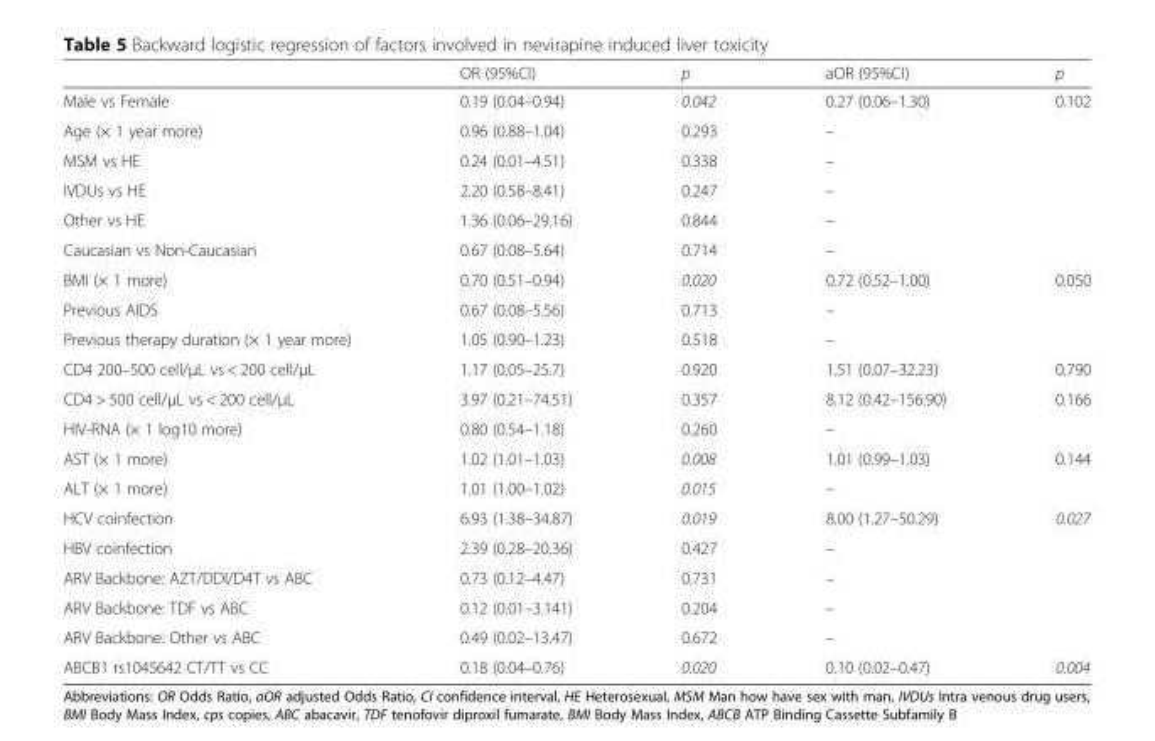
<table><thead><tr><td></td><td>OR (95%CI)</td><td>p</td><td>aOR (95%CI)</td><td>p</td></tr></thead><tbody><tr><td>Male vs Female</td><td>0.19 (0.04–0.94)</td><td>0.042</td><td>0.27 (0.06–1.30)</td><td>0.102</td></tr><tr><td>Age (× 1 year more)</td><td>0.96 (0.88–1.04)</td><td>0.293</td><td>–</td><td></td></tr><tr><td>MSM vs HE</td><td>0.24 (0.01–4.51)</td><td>0.338</td><td>–</td><td></td></tr><tr><td>IVDUs vs HE</td><td>2.20 (0.58–8.41)</td><td>0.247</td><td>–</td><td></td></tr><tr><td>Other vs HE</td><td>1.36 (0.06–29.16)</td><td>0.844</td><td>–</td><td></td></tr><tr><td>Caucasian vs Non-Caucasian</td><td>0.67 (0.08–5.64)</td><td>0.714</td><td>–</td><td></td></tr><tr><td>BMI (× 1 more)</td><td>0.70 (0.51–0.94)</td><td>0.020</td><td>0.72 (0.52–1.00)</td><td>0.050</td></tr><tr><td>Previous AIDS</td><td>0.67 (0.08–5.56)</td><td>0.713</td><td>–</td><td></td></tr><tr><td>Previous therapy duration (× 1 year more)</td><td>1.05 (0.90–1.23)</td><td>0.518</td><td>–</td><td></td></tr><tr><td>CD4 200–500 cell/μL vs &lt; 200 cell/μL</td><td>1.17 (0.05–25.7)</td><td>0.920</td><td>1.51 (0.07–32.23)</td><td>0.790</td></tr><tr><td>CD4 &gt; 500 cell/μL vs &lt; 200 cell/μL</td><td>3.97 (0.21–74.51)</td><td>0.357</td><td>8.12 (0.42–156.90)</td><td>0.166</td></tr><tr><td>HIV-RNA (× 1 log10 more)</td><td>0.80 (0.54–1.18)</td><td>0.260</td><td>–</td><td></td></tr><tr><td>AST (× 1 more)</td><td>1.02 (1.01–1.03)</td><td>0.008</td><td>1.01 (0.99–1.03)</td><td>0.144</td></tr><tr><td>ALT (× 1 more)</td><td>1.01 (1.00–1.02)</td><td>0.015</td><td>–</td><td></td></tr><tr><td>HCV coinfection</td><td>6.93 (1.38–34.87)</td><td>0.019</td><td>8.00 (1.27–50.29)</td><td>0.027</td></tr><tr><td>HBV coinfection</td><td>2.39 (0.28–20.36)</td><td>0.427</td><td>–</td><td></td></tr><tr><td>ARV Backbone: AZT/DDI/D4T vs ABC</td><td>0.73 (0.12–4.47)</td><td>0.731</td><td>–</td><td></td></tr><tr><td>ARV Backbone: TDF vs ABC</td><td>0.12 (0.01–3.141)</td><td>0.204</td><td>–</td><td></td></tr><tr><td>ARV Backbone: Other vs ABC</td><td>0.49 (0.02–13.47)</td><td>0.672</td><td>–</td><td></td></tr><tr><td>ABCB1 rs1045642 CT/TT vs CC</td><td>0.18 (0.04–0.76)</td><td>0.020</td><td>0.10 (0.02–0.47)</td><td>0.004</td></tr></tbody></table>